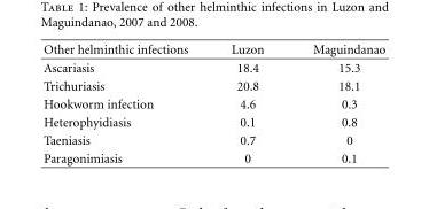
<table><thead><tr><td>Other helminthic infections</td><td>Luzon</td><td>Maguindanao</td></tr></thead><tbody><tr><td>Ascariasis</td><td>18.4</td><td>15.3</td></tr><tr><td>Trichuriasis</td><td>20.8</td><td>18.1</td></tr><tr><td>Hookworm infection</td><td>4.6</td><td>0.3</td></tr><tr><td>Heterophyidiasis</td><td>0.1</td><td>0.8</td></tr><tr><td>Taeniasis</td><td>0.7</td><td>0</td></tr><tr><td>Paragonimiasis</td><td>0</td><td>0.1</td></tr></tbody></table>